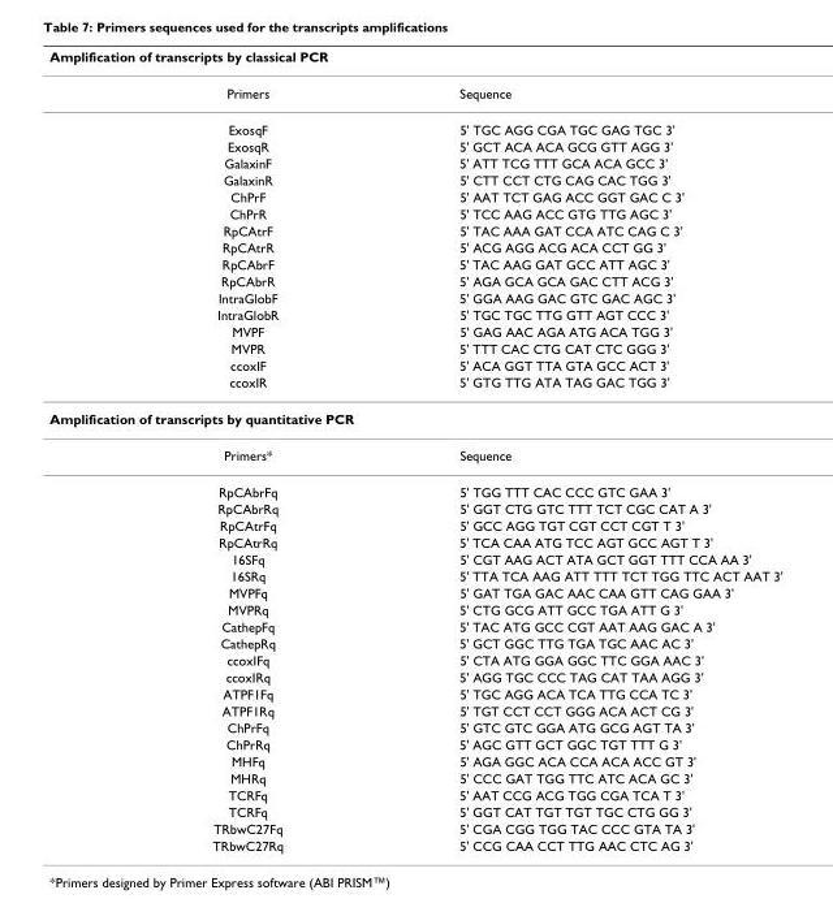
<table><thead><tr><td>Amplification of transcripts by classical PCR</td><td></td></tr></thead><tbody><tr><td>Primers</td><td>Sequence</td></tr><tr><td>ExosqF</td><td>5&#x27; TGC AGG CGA TGC GAG TGC 3&#x27;</td></tr><tr><td>ExosqR</td><td>5&#x27; GCT ACA ACA GCG GTT AGG 3&#x27;</td></tr><tr><td>GalaxinF</td><td>5&#x27; ATT TCG TTT GCA ACA GCC 3&#x27;</td></tr><tr><td>GalaxinR</td><td>5&#x27; CTT CCT CTG CAG CAC TGG 3&#x27;</td></tr><tr><td>ChPrF</td><td>5&#x27; AAT TCT GAG ACC GGT GAC C 3&#x27;</td></tr><tr><td>ChPrR</td><td>5&#x27; TCC AAG ACC GTG TTG AGC 3&#x27;</td></tr><tr><td>RpCAtrF</td><td>5&#x27; TAC AAA GAT CCA ATC CAG C 3&#x27;</td></tr><tr><td>RpCAtrR</td><td>5&#x27; ACG AGG ACG ACA CCT GG 3&#x27;</td></tr><tr><td>RpCAbrF</td><td>5&#x27; TAC AAG GAT GCC ATT AGC 3&#x27;</td></tr><tr><td>RpCAbrR</td><td>5&#x27; AGA GCA GCA GAC CTT ACG 3&#x27;</td></tr><tr><td>IntraGlobF</td><td>5&#x27; GGA AAG GAC GTC GAC AGC 3&#x27;</td></tr><tr><td>IntraGlobR</td><td>5&#x27; TGC TGC TTG GTT AGT CCC 3&#x27;</td></tr><tr><td>MVPF</td><td>5&#x27; GAG AAC AGA ATG ACA TGG 3&#x27;</td></tr><tr><td>MVPR</td><td>5&#x27; TTT CAC CTG CAT CTC GGG 3&#x27;</td></tr><tr><td>ccoxIF</td><td>5&#x27; ACA GGT TTA GTA GCC ACT 3&#x27;</td></tr><tr><td>ccoxIR</td><td>5&#x27; GTG TTG ATA TAG GAC TGG 3&#x27;</td></tr><tr><td colspan="2">Amplification of transcripts by quantitative PCR</td></tr><tr><td>Primers*</td><td>Sequence</td></tr><tr><td>RpCAbrFq</td><td>5&#x27; TGG TTT CAC CCC GTC GAA 3&#x27;</td></tr><tr><td>RpCAbrRq</td><td>5&#x27; GGT CTG GTC TTT TCT CGC CAT A 3&#x27;</td></tr><tr><td>RpCAtrFq</td><td>5&#x27; GCC AGG TGT CGT CCT CGT T 3&#x27;</td></tr><tr><td>RpCAtrRq</td><td>5&#x27; TCA CAA ATG TCC AGT GCC AGT T 3&#x27;</td></tr><tr><td>16SFq</td><td>5&#x27; CGT AAG ACT ATA GCT GGT TTT CCA AA 3&#x27;</td></tr><tr><td>16SRq</td><td>5&#x27; TTA TCA AAG ATT TTT TCT TGG TTC ACT AAT 3&#x27;</td></tr><tr><td>MVPFq</td><td>5&#x27; GAT TGA GAC AAC CAA GTT CAG GAA 3&#x27;</td></tr><tr><td>MVPRq</td><td>5&#x27; CTG GCG ATT GCC TGA ATT G 3&#x27;</td></tr><tr><td>CathepFq</td><td>5&#x27; TAC ATG GCC CGT AAT AAG GAC A 3&#x27;</td></tr><tr><td>CathepRq</td><td>5&#x27; GCT GGC TTG TGA TGC AAC AC 3&#x27;</td></tr><tr><td>ccoxIFq</td><td>5&#x27; CTA ATG GGA GGC TTC GGA AAC 3&#x27;</td></tr><tr><td>ccoxIRq</td><td>5&#x27; AGG TGC CCC TAG CAT TAA AGG 3&#x27;</td></tr><tr><td>ATPF1Fq</td><td>5&#x27; TGC AGG ACA TCA TTG CCA TC 3&#x27;</td></tr><tr><td>ATPF1Rq</td><td>5&#x27; TGT CCT CCT GGG ACA ACT CG 3&#x27;</td></tr><tr><td>ChPrFq</td><td>5&#x27; GTC GTC GGA ATG GCG AGT TA 3&#x27;</td></tr><tr><td>ChPrRq</td><td>5&#x27; AGC GTT GCT GGC TGT TTT G 3&#x27;</td></tr><tr><td>MHFq</td><td>5&#x27; AGA GGC ACA CCA ACA ACC GT 3&#x27;</td></tr><tr><td>MHRq</td><td>5&#x27; CCC GAT TGG TTC ATC ACA GC 3&#x27;</td></tr><tr><td>TCRFq</td><td>5&#x27; AAT CCG ACG TGG CGA TCA T 3&#x27;</td></tr><tr><td>TCRFq</td><td>5&#x27; GGT CAT TGT TGT TGC CTG GG 3&#x27;</td></tr><tr><td>TRbwC27Fq</td><td>5&#x27; CGA CGG TGG TAC CCC GTA TA 3&#x27;</td></tr><tr><td>TRbwC27Rq</td><td>5&#x27; CCG CAA CCT TTG AAC CTC AG 3&#x27;</td></tr></tbody></table>